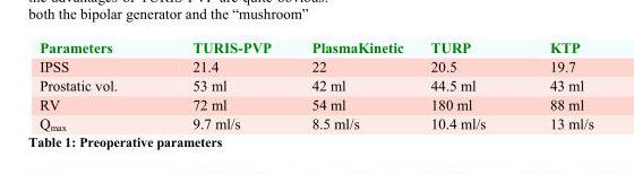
<table><thead><tr><td>Parameters</td><td>TURIS-PVP</td><td>PlasmaKinetic</td><td>TURP</td><td>KTP</td></tr></thead><tbody><tr><td>IPSS</td><td>21.4</td><td>22</td><td>20.5</td><td>19.7</td></tr><tr><td>Prostatic vol.</td><td>53 ml</td><td>42 ml</td><td>44.5 ml</td><td>43 ml</td></tr><tr><td>RV</td><td>72 ml</td><td>54 ml</td><td>180 ml</td><td>88 ml</td></tr><tr><td>Qmax</td><td>9.7 ml/s</td><td>8.5 ml/s</td><td>10.4 ml/s</td><td>13 ml/s</td></tr></tbody></table>